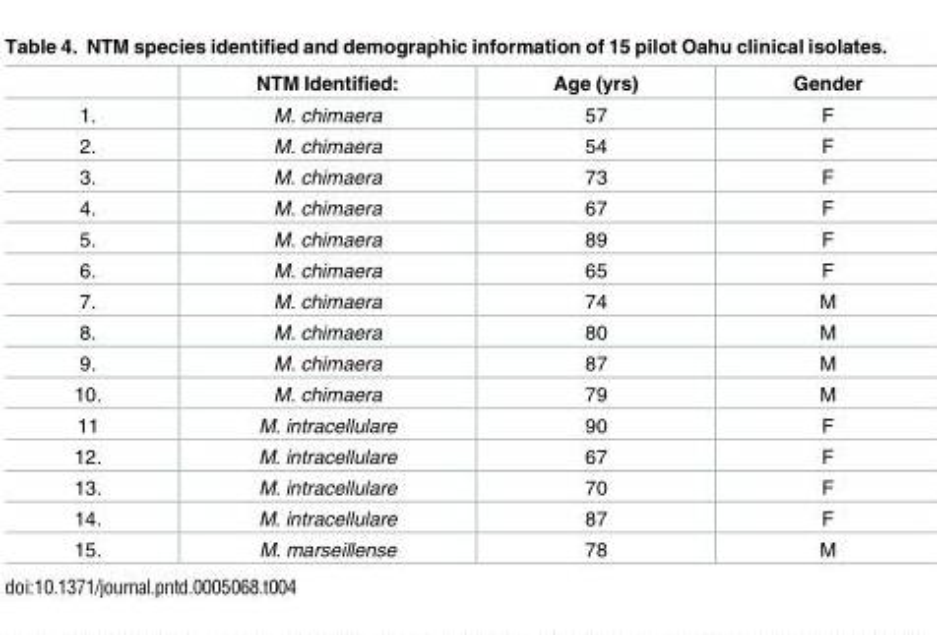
<table><thead><tr><td></td><td>NTM Identified:</td><td>Age (yrs)</td><td>Gender</td></tr></thead><tbody><tr><td>1.</td><td>M. chimaera</td><td>57</td><td>F</td></tr><tr><td>2.</td><td>M. chimaera</td><td>54</td><td>F</td></tr><tr><td>3.</td><td>M. chimaera</td><td>73</td><td>F</td></tr><tr><td>4.</td><td>M. chimaera</td><td>67</td><td>F</td></tr><tr><td>5.</td><td>M. chimaera</td><td>89</td><td>F</td></tr><tr><td>6.</td><td>M. chimaera</td><td>65</td><td>F</td></tr><tr><td>7.</td><td>M. chimaera</td><td>74</td><td>M</td></tr><tr><td>8.</td><td>M. chimaera</td><td>80</td><td>M</td></tr><tr><td>9.</td><td>M. chimaera</td><td>87</td><td>M</td></tr><tr><td>10.</td><td>M. chimaera</td><td>79</td><td>M</td></tr><tr><td>11</td><td>M. intracellulare</td><td>90</td><td>F</td></tr><tr><td>12.</td><td>M. intracellulare</td><td>67</td><td>F</td></tr><tr><td>13.</td><td>M. intracellulare</td><td>70</td><td>F</td></tr><tr><td>14.</td><td>M. intracellulare</td><td>87</td><td>F</td></tr><tr><td>15.</td><td>M. marseillense</td><td>78</td><td>M</td></tr></tbody></table>